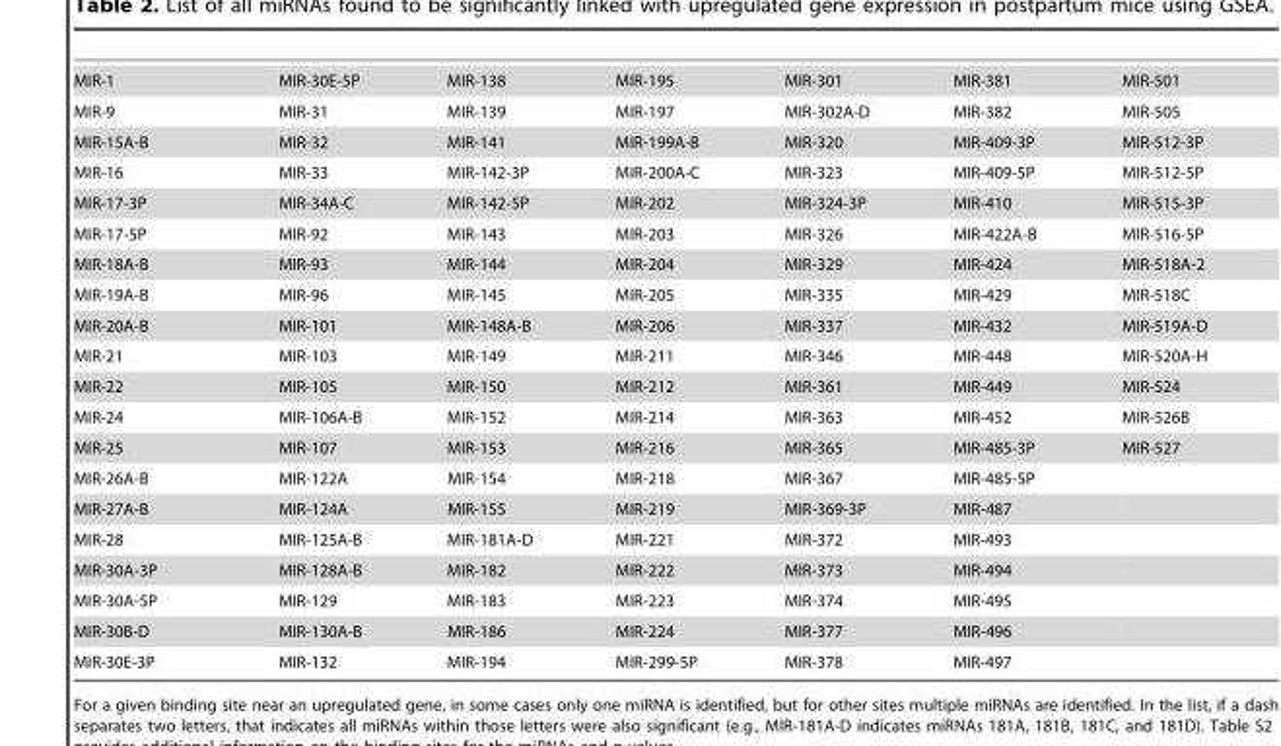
<table><tbody><tr><td>MIR-1</td><td>MIR-30E-5P</td><td>MIR-138</td><td>MIR-195</td><td>MIR-301</td><td>MIR-381</td><td>MIR-501</td></tr><tr><td>MIR-9</td><td>MIR-31</td><td>MIR-139</td><td>MIR-197</td><td>MIR-302A-D</td><td>MIR-382</td><td>MIR-505</td></tr><tr><td>MIR-15A-B</td><td>MIR-32</td><td>MIR-141</td><td>MIR-199A-B</td><td>MIR-320</td><td>MIR-409-3P</td><td>MIR-512-3P</td></tr><tr><td>MIR-16</td><td>MIR-33</td><td>MIR-142-3P</td><td>MIR-200A-C</td><td>MIR-323</td><td>MIR-409-5P</td><td>MIR-512-5P</td></tr><tr><td>MIR-17-3P</td><td>MIR-34A-C</td><td>MIR-142-5P</td><td>MIR-202</td><td>MIR-324-3P</td><td>MIR-410</td><td>MIR-515-3P</td></tr><tr><td>MIR-17-5P</td><td>MIR-92</td><td>MIR-143</td><td>MIR-203</td><td>MIR-326</td><td>MIR-422A-B</td><td>MIR-516-5P</td></tr><tr><td>MIR-18A-B</td><td>MIR-93</td><td>MIR-144</td><td>MIR-204</td><td>MIR-329</td><td>MIR-424</td><td>MIR-518A-2</td></tr><tr><td>MIR-19A-B</td><td>MIR-96</td><td>MIR-145</td><td>MIR-205</td><td>MIR-335</td><td>MIR-429</td><td>MIR-518C</td></tr><tr><td>MIR-20A-B</td><td>MIR-101</td><td>MIR-148A-B</td><td>MIR-206</td><td>MIR-337</td><td>MIR-432</td><td>MIR-519A-D</td></tr><tr><td>MIR-21</td><td>MIR-103</td><td>MIR-149</td><td>MIR-211</td><td>MIR-346</td><td>MIR-448</td><td>MIR-520A-H</td></tr><tr><td>MIR-22</td><td>MIR-105</td><td>MIR-150</td><td>MIR-212</td><td>MIR-361</td><td>MIR-449</td><td>MIR-524</td></tr><tr><td>MIR-24</td><td>MIR-106A-B</td><td>MIR-152</td><td>MIR-214</td><td>MIR-363</td><td>MIR-452</td><td>MIR-526B</td></tr><tr><td>MIR-25</td><td>MIR-107</td><td>MIR-153</td><td>MIR-216</td><td>MIR-365</td><td>MIR-485-3P</td><td>MIR-527</td></tr><tr><td>MIR-26A-B</td><td>MIR-122A</td><td>MIR-154</td><td>MIR-218</td><td>MIR-367</td><td>MIR-485-5P</td><td></td></tr><tr><td>MIR-27A-B</td><td>MIR-124A</td><td>MIR-155</td><td>MIR-219</td><td>MIR-369-3P</td><td>MIR-487</td><td></td></tr><tr><td>MIR-28</td><td>MIR-125A-B</td><td>MIR-181A-D</td><td>MIR-221</td><td>MIR-372</td><td>MIR-493</td><td></td></tr><tr><td>MIR-30A-3P</td><td>MIR-128A-B</td><td>MIR-182</td><td>MIR-222</td><td>MIR-373</td><td>MIR-494</td><td></td></tr><tr><td>MIR-30A-5P</td><td>MIR-129</td><td>MIR-183</td><td>MIR-223</td><td>MIR-374</td><td>MIR-495</td><td></td></tr><tr><td>MIR-30B-D</td><td>MIR-130A-B</td><td>MIR-186</td><td>MIR-224</td><td>MIR-377</td><td>MIR-496</td><td></td></tr><tr><td>MIR-30E-3P</td><td>MIR-132</td><td>MIR-194</td><td>MIR-299-5P</td><td>MIR-378</td><td>MIR-497</td><td></td></tr></tbody></table>